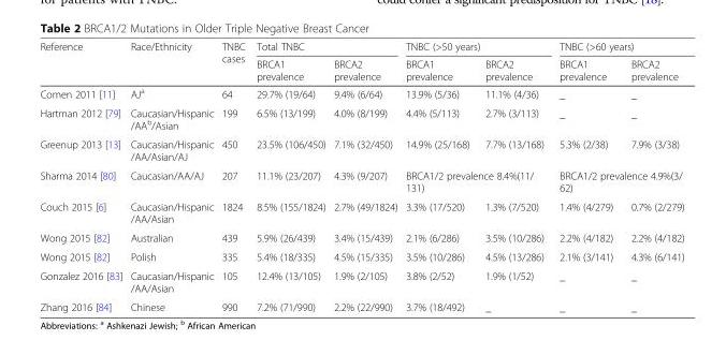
<table><thead><tr><td rowspan="2">Reference</td><td rowspan="2">Race/Ethnicity</td><td rowspan="2">TNBC cases</td><td colspan="2">Total TNBC</td><td colspan="2">TNBC (&gt;50 years)</td><td colspan="2">TNBC (&gt;60 years)</td></tr><tr><td>BRCA1 prevalence</td><td>BRCA2 prevalence</td><td>BRCA1 prevalence</td><td>BRCA2 prevalence</td><td>BRCA1 prevalence</td><td>BRCA2 prevalence</td></tr></thead><tbody><tr><td>Comen 2011 [11]</td><td>AJ<sup>a</sup></td><td>64</td><td>29.7% (19/64)</td><td>9.4% (6/64)</td><td>13.9% (5/36)</td><td>11.1% (4/36)</td><td>_</td><td>_</td></tr><tr><td>Hartman 2012 [79]</td><td>Caucasian/Hispanic /AA<sup>b</sup>/Asian</td><td>199</td><td>6.5% (13/199)</td><td>4.0% (8/199)</td><td>4.4% (5/113)</td><td>2.7% (3/113)</td><td>_</td><td>_</td></tr><tr><td>Greenup 2013 [13]</td><td>Caucasian/Hispanic /AA/Asian/AJ</td><td>450</td><td>23.5% (106/450)</td><td>7.1% (32/450)</td><td>14.9% (25/168)</td><td>7.7% (13/168)</td><td>5.3% (2/38)</td><td>7.9% (3/38)</td></tr><tr><td>Sharma 2014 [80]</td><td>Caucasian/AA/AJ</td><td>207</td><td>11.1% (23/207)</td><td>4.3% (9/207)</td><td colspan="2">BRCA1/2 prevalence 8.4%(11/ 131)</td><td colspan="2">BRCA1/2 prevalence 4.9%(3/ 62)</td></tr><tr><td>Couch 2015 [6]</td><td>Caucasian/Hispanic /AA/Asian</td><td>1824</td><td>8.5% (155/1824)</td><td>2.7% (49/1824)</td><td>3.3% (17/520)</td><td>1.3% (7/520)</td><td>1.4% (4/279)</td><td>0.7% (2/279)</td></tr><tr><td>Wong 2015 [82]</td><td>Australian</td><td>439</td><td>5.9% (26/439)</td><td>3.4% (15/439)</td><td>2.1% (6/286)</td><td>3.5% (10/286)</td><td>2.2% (4/182)</td><td>2.2% (4/182)</td></tr><tr><td>Wong 2015 [82]</td><td>Polish</td><td>335</td><td>5.4% (18/335)</td><td>4.5% (15/335)</td><td>3.5% (10/286)</td><td>4.5% (13/286)</td><td>2.1% (3/141)</td><td>4.3% (6/141)</td></tr><tr><td>Gonzalez 2016 [83]</td><td>Caucasian/Hispanic /AA/Asian</td><td>105</td><td>12.4% (13/105)</td><td>1.9% (2/105)</td><td>3.8% (2/52)</td><td>1.9% (1/52)</td><td>_</td><td>_</td></tr><tr><td>Zhang 2016 [84]</td><td>Chinese</td><td>990</td><td>7.2% (71/990)</td><td>2.2% (22/990)</td><td>3.7% (18/492)</td><td>_</td><td>_</td><td>_</td></tr></tbody></table>